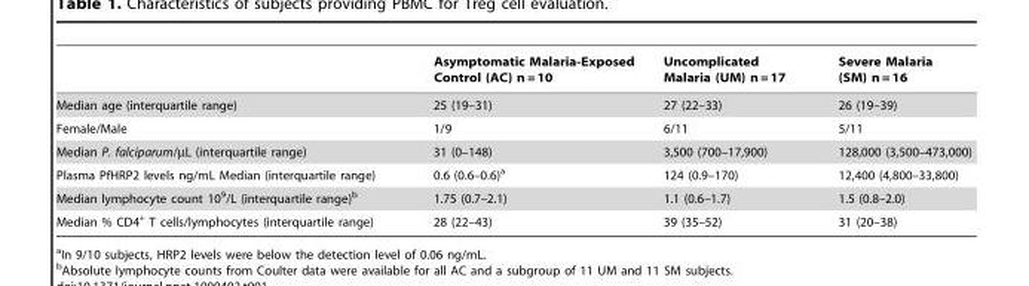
<table><thead><tr><td></td><td>Asymptomatic Malaria-Exposed Control (AC) n = 10</td><td>Uncomplicated Malaria (UM) n = 17</td><td>Severe Malaria (SM) n = 16</td></tr></thead><tbody><tr><td>Median age (interquartile range)</td><td>25 (19–31)</td><td>27 (22–33)</td><td>26 (19–39)</td></tr><tr><td>Female/Male</td><td>1/9</td><td>6/11</td><td>5/11</td></tr><tr><td>Median P. falciparum/µL (interquartile range)</td><td>31 (0–148)</td><td>3,500 (700–17,900)</td><td>128,000 (3,500–473,000)</td></tr><tr><td>Plasma PfHRP2 levels ng/mL Median (interquartile range)</td><td>0.6 (0.6–0.6)<sup>a</sup></td><td>124 (0.9–170)</td><td>12,400 (4,800–33,800)</td></tr><tr><td>Median lymphocyte count 10<sup>9</sup>/L (interquartile range)<sup>b</sup></td><td>1.75 (0.7–2.1)</td><td>1.1 (0.6–1.7)</td><td>1.5 (0.8–2.0)</td></tr><tr><td>Median % CD4<sup>+</sup> T cells/lymphocytes (interquartile range)</td><td>28 (22–43)</td><td>39 (35–52)</td><td>31 (20–38)</td></tr></tbody></table>